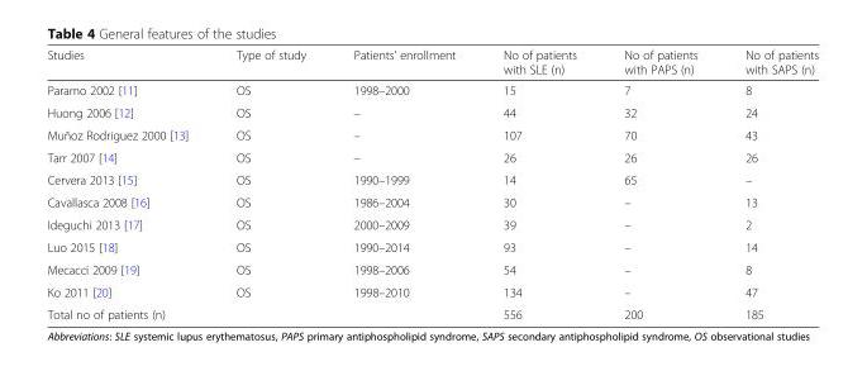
<table><thead><tr><td>Studies</td><td>Type of study</td><td>Patients’ enrollment</td><td>No of patients with SLE (n)</td><td>No of patients with PAPS (n)</td><td>No of patients with SAPS (n)</td></tr></thead><tbody><tr><td>Paramo 2002 [11]</td><td>OS</td><td>1998–2000</td><td>15</td><td>7</td><td>8</td></tr><tr><td>Huong 2006 [12]</td><td>OS</td><td>–</td><td>44</td><td>32</td><td>24</td></tr><tr><td>Muñoz Rodriguez 2000 [13]</td><td>OS</td><td>–</td><td>107</td><td>70</td><td>43</td></tr><tr><td>Tarr 2007 [14]</td><td>OS</td><td>–</td><td>26</td><td>26</td><td>26</td></tr><tr><td>Cervera 2013 [15]</td><td>OS</td><td>1990–1999</td><td>14</td><td>65</td><td>–</td></tr><tr><td>Cavallasca 2008 [16]</td><td>OS</td><td>1986–2004</td><td>30</td><td>–</td><td>13</td></tr><tr><td>Ideguchi 2013 [17]</td><td>OS</td><td>2000–2009</td><td>39</td><td>–</td><td>2</td></tr><tr><td>Luo 2015 [18]</td><td>OS</td><td>1990–2014</td><td>93</td><td>–</td><td>14</td></tr><tr><td>Mecacci 2009 [19]</td><td>OS</td><td>1998–2006</td><td>54</td><td>–</td><td>8</td></tr><tr><td>Ko 2011 [20]</td><td>OS</td><td>1998–2010</td><td>134</td><td>–</td><td>47</td></tr><tr><td>Total no of patients (n)</td><td></td><td></td><td>556</td><td>200</td><td>185</td></tr></tbody></table>